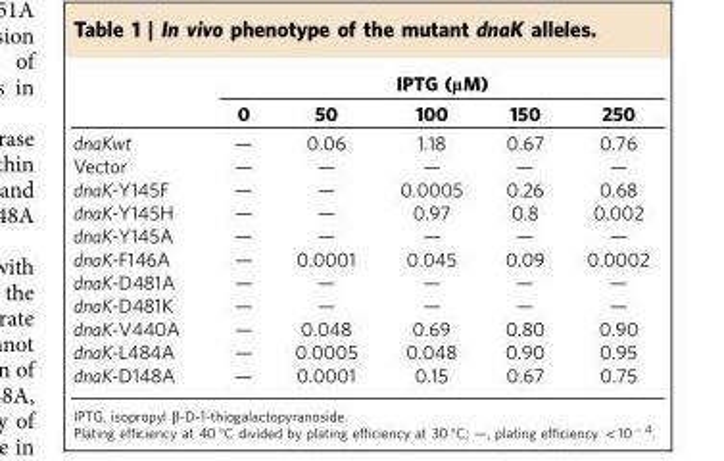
<table><thead><tr><td rowspan="2"></td><td colspan="5">IPTG (μM)</td></tr><tr><td>0</td><td>50</td><td>100</td><td>150</td><td>250</td></tr></thead><tbody><tr><td>dnaKwt</td><td>—</td><td>0.06</td><td>1.18</td><td>0.67</td><td>0.76</td></tr><tr><td>Vector</td><td>—</td><td>—</td><td>—</td><td>—</td><td>—</td></tr><tr><td>dnaK-Y145F</td><td>—</td><td>—</td><td>0.0005</td><td>0.26</td><td>0.68</td></tr><tr><td>dnaK-Y145H</td><td>—</td><td>—</td><td>0.97</td><td>0.8</td><td>0.002</td></tr><tr><td>dnaK-Y145A</td><td>—</td><td>—</td><td>—</td><td>—</td><td>—</td></tr><tr><td>dnaK-F146A</td><td>—</td><td>0.0001</td><td>0.045</td><td>0.09</td><td>0.0002</td></tr><tr><td>dnaK-D481A</td><td>—</td><td>—</td><td>—</td><td>—</td><td>—</td></tr><tr><td>dnaK-D481K</td><td>—</td><td>—</td><td>—</td><td>—</td><td>—</td></tr><tr><td>dnaK-V440A</td><td>—</td><td>0.048</td><td>0.69</td><td>0.80</td><td>0.90</td></tr><tr><td>dnaK-L484A</td><td>—</td><td>0.0005</td><td>0.048</td><td>0.90</td><td>0.95</td></tr><tr><td>dnaK-D148A</td><td>—</td><td>0.0001</td><td>0.15</td><td>0.67</td><td>0.75</td></tr></tbody></table>